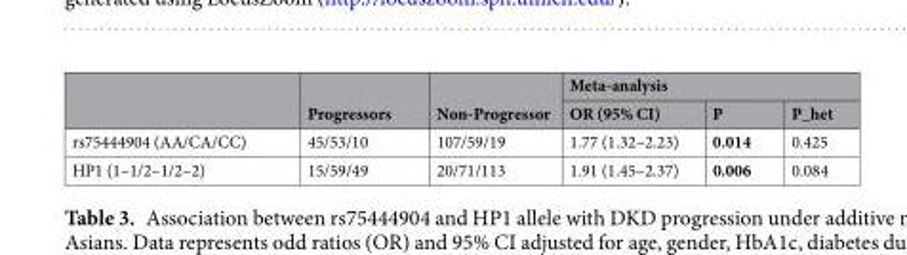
<table><thead><tr><td rowspan="2"></td><td rowspan="2">Progressors</td><td rowspan="2">Non-Progressor</td><td colspan="3">Meta-analysis</td></tr><tr><td>OR (95% CI)</td><td>P</td><td>P_het</td></tr></thead><tbody><tr><td>rs75444904 (AA/CA/CC)</td><td>45/53/10</td><td>107/59/19</td><td>1.77 (1.32–2.23)</td><td>0.014</td><td>0.425</td></tr><tr><td>HP1 (1–1/2–1/2–2)</td><td>15/59/49</td><td>20/71/113</td><td>1.91 (1.45–2.37)</td><td>0.006</td><td>0.084</td></tr></tbody></table>